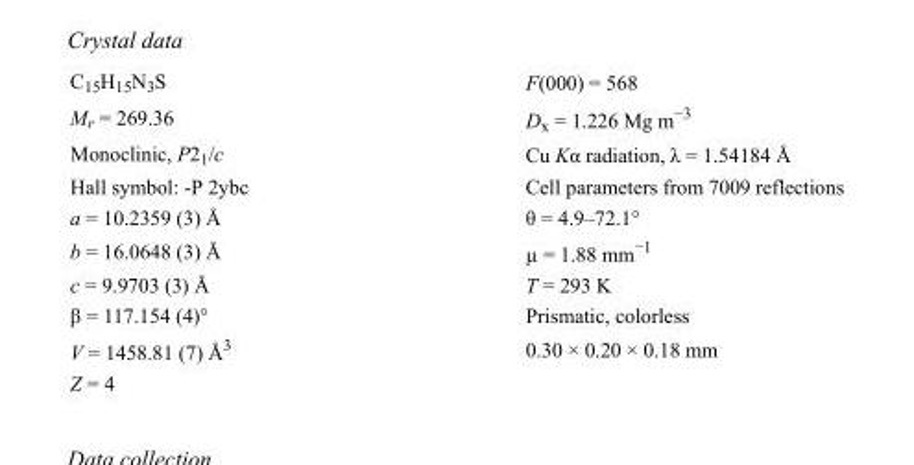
<table><tbody><tr><td>C<sub>15</sub>H<sub>15</sub>N<sub>3</sub>S</td><td>F(000) = 568</td></tr><tr><td>M<sub>r</sub> = 269.36</td><td>D<sub>x</sub> = 1.226 Mg m<sup>−3</sup></td></tr><tr><td>Monoclinic, P2<sub>1</sub>/c</td><td>Cu Kα radiation, λ = 1.54184 Å</td></tr><tr><td>Hall symbol: -P 2ybc</td><td>Cell parameters from 7009 reflections</td></tr><tr><td>a = 10.2359 (3) Å</td><td>θ = 4.9–72.1°</td></tr><tr><td>b = 16.0648 (3) Å</td><td>µ = 1.88 mm<sup>−1</sup></td></tr><tr><td>c = 9.9703 (3) Å</td><td>T = 293 K</td></tr><tr><td>β = 117.154 (4)°</td><td>Prismatic, colorless</td></tr><tr><td>V = 1458.81 (7) Å<sup>3</sup></td><td>0.30 × 0.20 × 0.18 mm</td></tr><tr><td>Z = 4</td><td></td></tr></tbody></table>